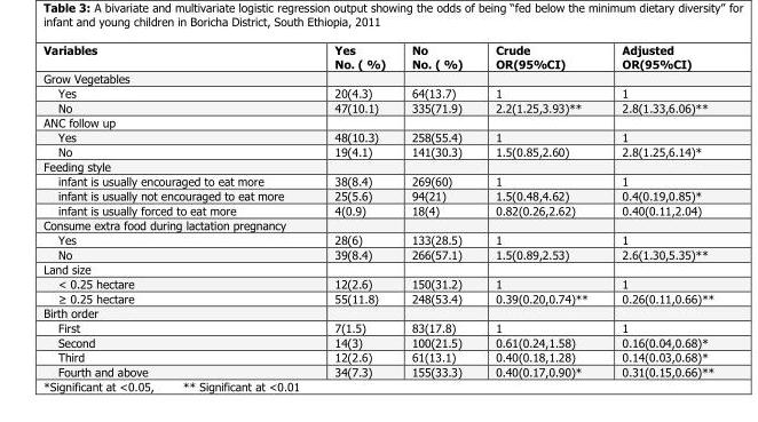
<table><thead><tr><td>Variables</td><td>Yes No. ( %)</td><td>No No. ( %)</td><td>Crude OR(95%CI)</td><td>Adjusted OR(95%CI)</td></tr></thead><tbody><tr><td colspan="5">Grow Vegetables</td></tr><tr><td>Yes</td><td>20(4.3)</td><td>64(13.7)</td><td>1</td><td>1</td></tr><tr><td>No</td><td>47(10.1)</td><td>335(71.9)</td><td>2.2(1.25,3.93)**</td><td>2.8(1.33,6.06)**</td></tr><tr><td colspan="5">ANC follow up</td></tr><tr><td>Yes</td><td>48(10.3)</td><td>258(55.4)</td><td>1</td><td>1</td></tr><tr><td>No</td><td>19(4.1)</td><td>141(30.3)</td><td>1.5(0.85,2.60)</td><td>2.8(1.25,6.14)*</td></tr><tr><td colspan="5">Feeding style</td></tr><tr><td>infant is usually encouraged to eat more</td><td>38(8.4)</td><td>269(60)</td><td>1</td><td>1</td></tr><tr><td>infant is usually not encouraged to eat more</td><td>25(5.6)</td><td>94(21)</td><td>1.5(0.48,4.62)</td><td>0.4(0.19,0.85)*</td></tr><tr><td>infant is usually forced to eat more</td><td>4(0.9)</td><td>18(4)</td><td>0.82(0.26,2.62)</td><td>0.40(0.11,2.04)</td></tr><tr><td colspan="5">Consume extra food during lactation pregnancy</td></tr><tr><td>Yes</td><td>28(6)</td><td>133(28.5)</td><td>1</td><td>1</td></tr><tr><td>No</td><td>39(8.4)</td><td>266(57.1)</td><td>1.5(0.89,2.53)</td><td>2.6(1.30,5.35)**</td></tr><tr><td colspan="5">Land size</td></tr><tr><td>&lt; 0.25 hectare</td><td>12(2.6)</td><td>150(31.2)</td><td>1</td><td>1</td></tr><tr><td>≥ 0.25 hectare</td><td>55(11.8)</td><td>248(53.4)</td><td>0.39(0.20,0.74)**</td><td>0.26(0.11,0.66)**</td></tr><tr><td colspan="5">Birth order</td></tr><tr><td>First</td><td>7(1.5)</td><td>83(17.8)</td><td>1</td><td>1</td></tr><tr><td>Second</td><td>14(3)</td><td>100(21.5)</td><td>0.61(0.24,1.58)</td><td>0.16(0.04,0.68)*</td></tr><tr><td>Third</td><td>12(2.6)</td><td>61(13.1)</td><td>0.40(0.18,1.28)</td><td>0.14(0.03,0.68)*</td></tr><tr><td>Fourth and above</td><td>34(7.3)</td><td>155(33.3)</td><td>0.40(0.17,0.90)*</td><td>0.31(0.15,0.66)**</td></tr></tbody></table>